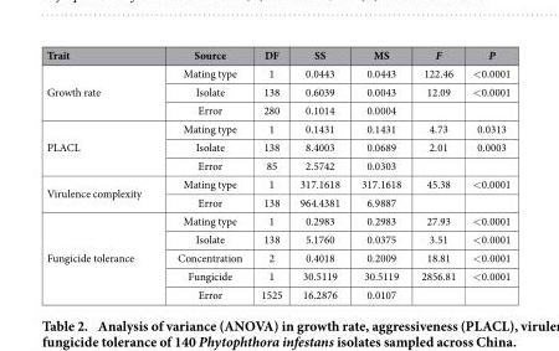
<table><thead><tr><td>Trait</td><td>Source</td><td>DF</td><td>SS</td><td>MS</td><td>F</td><td>P</td></tr></thead><tbody><tr><td rowspan="3">Growth rate</td><td>Mating type</td><td>1</td><td>0.0443</td><td>0.0443</td><td>122.46</td><td>&lt; 0.0001</td></tr><tr><td>Isolate</td><td>138</td><td>0.6039</td><td>0.0043</td><td>12.09</td><td>&lt; 0.0001</td></tr><tr><td>Error</td><td>280</td><td>0.1014</td><td>0.0004</td><td></td><td></td></tr><tr><td rowspan="3">PLACL</td><td>Mating type</td><td>1</td><td>0.1431</td><td>0.1431</td><td>4.73</td><td>0.0313</td></tr><tr><td>Isolate</td><td>138</td><td>8.4003</td><td>0.0689</td><td>2.01</td><td>0.0003</td></tr><tr><td>Error</td><td>85</td><td>2.5742</td><td>0.0303</td><td></td><td></td></tr><tr><td rowspan="2">Virulence complexity</td><td>Mating type</td><td>1</td><td>317.1618</td><td>317.1618</td><td>45.38</td><td>&lt; 0.0001</td></tr><tr><td>Error</td><td>138</td><td>964.4381</td><td>6.9887</td><td></td><td></td></tr><tr><td rowspan="5">Fungicide tolerance</td><td>Mating type</td><td>1</td><td>0.2983</td><td>0.2983</td><td>27.93</td><td>&lt; 0.0001</td></tr><tr><td>Isolate</td><td>138</td><td>5.1760</td><td>0.0375</td><td>3.51</td><td>&lt; 0.0001</td></tr><tr><td>Concentration</td><td>2</td><td>0.4018</td><td>0.2009</td><td>18.81</td><td>&lt; 0.0001</td></tr><tr><td>Fungicide</td><td>1</td><td>30.5119</td><td>30.5119</td><td>2856.81</td><td>&lt; 0.0001</td></tr><tr><td>Error</td><td>1525</td><td>16.2876</td><td>0.0107</td><td></td><td></td></tr></tbody></table>